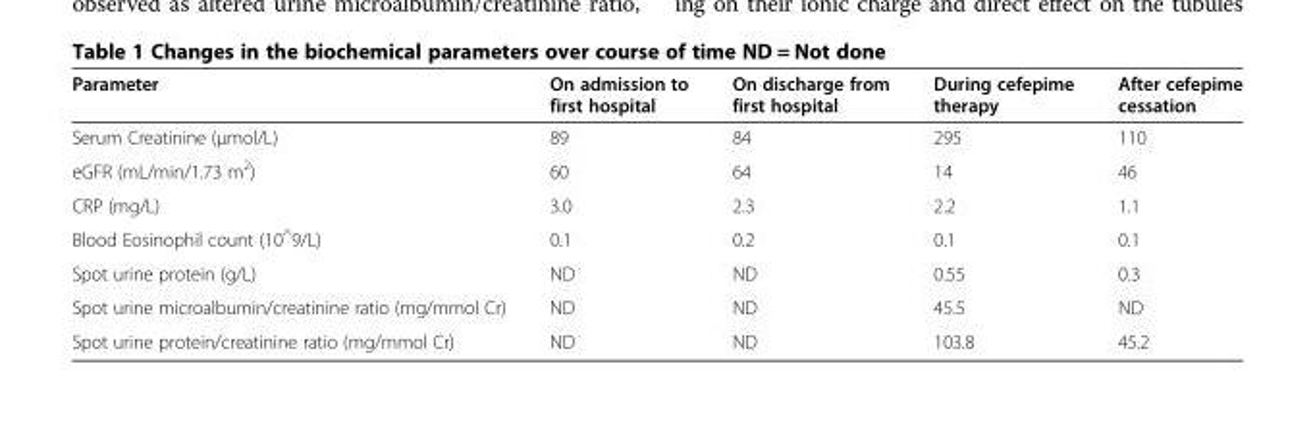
<table><thead><tr><td>Parameter</td><td>On admission to first hospital</td><td>On discharge from first hospital</td><td>During cefepime therapy</td><td>After cefepime cessation</td></tr></thead><tbody><tr><td>Serum Creatinine (μmol/L)</td><td>89</td><td>84</td><td>295</td><td>110</td></tr><tr><td>eGFR (mL/min/1.73 m<sup>2</sup>)</td><td>60</td><td>64</td><td>14</td><td>46</td></tr><tr><td>CRP (mg/L)</td><td>3.0</td><td>2.3</td><td>2.2</td><td>1.1</td></tr><tr><td>Blood Eosinophil count (10<sup>^</sup>9/L)</td><td>0.1</td><td>0.2</td><td>0.1</td><td>0.1</td></tr><tr><td>Spot urine protein (g/L)</td><td>ND</td><td>ND</td><td>0.55</td><td>0.3</td></tr><tr><td>Spot urine microalbumin/creatinine ratio (mg/mmol Cr)</td><td>ND</td><td>ND</td><td>45.5</td><td>ND</td></tr><tr><td>Spot urine protein/creatinine ratio (mg/mmol Cr)</td><td>ND</td><td>ND</td><td>103.8</td><td>45.2</td></tr></tbody></table>